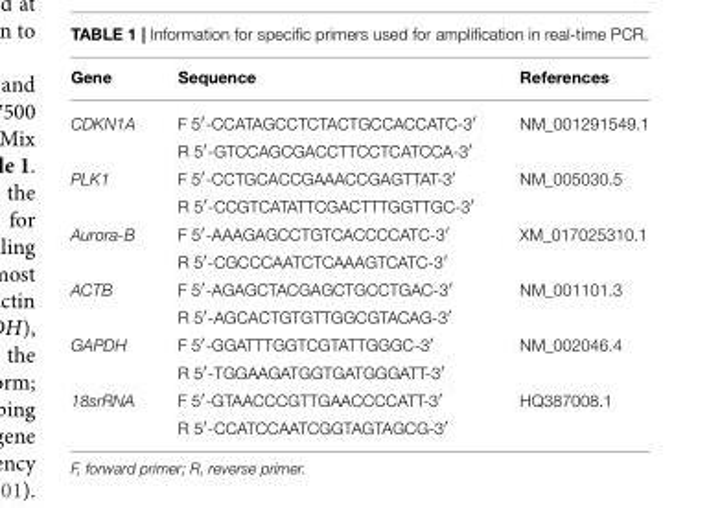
<table><thead><tr><td>Gene</td><td>Sequence</td><td>References</td></tr></thead><tbody><tr><td rowspan="2">CDKN1A</td><td>F 5′-CCATAGCCTCTACTGCCACCATC-3′</td><td>NM_001291549.1</td></tr><tr><td>R 5′-GTCCAGCGACCTTCCTCATCCA-3′</td><td></td></tr><tr><td rowspan="2">PLK1</td><td>F 5′-CCTGCACCGAAACCGAGTTAT-3′</td><td>NM_005030.5</td></tr><tr><td>R 5′-CCGTCATATTCGACTTTGGTTGC-3′</td><td></td></tr><tr><td rowspan="2">Aurora-B</td><td>F 5′-AAAGAGCCTGTCACCCCATC-3′</td><td>XM_017025310.1</td></tr><tr><td>R 5′-CGCCCAATCTCAAAGTCATC-3′</td><td></td></tr><tr><td rowspan="2">ACTB</td><td>F 5′-AGAGCTACGAGCTGCCTGAC-3′</td><td>NM_001101.3</td></tr><tr><td>R 5′-AGCACTGTGTTGGCGTACAG-3′</td><td></td></tr><tr><td rowspan="2">GAPDH</td><td>F 5′-GGATTTGGTCGTATTGGGC-3′</td><td>NM_002046.4</td></tr><tr><td>R 5′-TGGAAGATGGTGATGGGATT-3′</td><td></td></tr><tr><td rowspan="2">18srRNA</td><td>F 5′-GTAACCCGTTGAACCCCATT-3′</td><td>HQ387008.1</td></tr><tr><td>R 5′-CCATCCAATCGGTAGTAGCG-3′</td><td></td></tr></tbody></table>